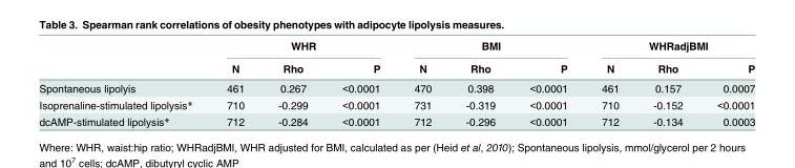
<table><thead><tr><td rowspan="2"></td><td colspan="3">WHR</td><td colspan="3">BMI</td><td colspan="3">WHRadjBMI</td></tr><tr><td>N</td><td>Rho</td><td>P</td><td>N</td><td>Rho</td><td>P</td><td>N</td><td>Rho</td><td>P</td></tr></thead><tbody><tr><td>Spontaneous lipolyis</td><td>461</td><td>0.267</td><td>&lt;0.0001</td><td>470</td><td>0.398</td><td>&lt;0.0001</td><td>461</td><td>0.157</td><td>0.0007</td></tr><tr><td>Isoprenaline-stimulated lipolysis*</td><td>710</td><td>-0.299</td><td>&lt;0.0001</td><td>731</td><td>-0.319</td><td>&lt;0.0001</td><td>710</td><td>-0.152</td><td>&lt;0.0001</td></tr><tr><td>dcAMP-stimulated lipolysis*</td><td>712</td><td>-0.284</td><td>&lt;0.0001</td><td>712</td><td>-0.296</td><td>&lt;0.0001</td><td>712</td><td>-0.134</td><td>0.0003</td></tr></tbody></table>